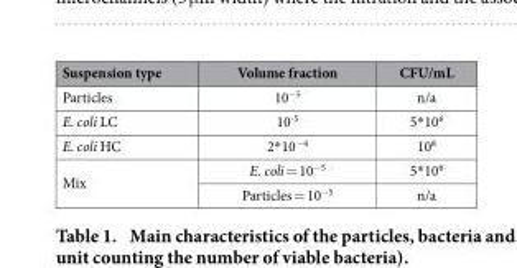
<table><thead><tr><td>Suspension type</td><td>Volume fraction</td><td>CFU/mL</td></tr></thead><tbody><tr><td>Particles</td><td>10<sup>−5</sup></td><td>n/a</td></tr><tr><td>E. coli LC</td><td>10<sup>-5</sup></td><td>5* 10<sup>6</sup></td></tr><tr><td>E. coli HC</td><td>2* 10<sup>−4</sup></td><td>10<sup>8</sup></td></tr><tr><td rowspan="2">Mix</td><td>E. coli = 10<sup>−5</sup></td><td>5* 10<sup>6</sup></td></tr><tr><td>Particles = 10<sup>−5</sup></td><td>n/a</td></tr></tbody></table>